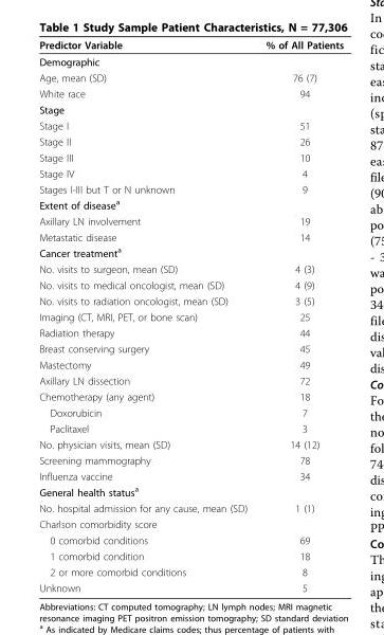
<table><thead><tr><td>Predictor Variable</td><td>% of All Patients</td></tr></thead><tbody><tr><td colspan="2">Demographic</td></tr><tr><td>Age, mean (SD)</td><td>76 (7)</td></tr><tr><td>White race</td><td>94</td></tr><tr><td colspan="2">Stage</td></tr><tr><td>Stage I</td><td>51</td></tr><tr><td>Stage II</td><td>26</td></tr><tr><td>Stage III</td><td>10</td></tr><tr><td>Stage IV</td><td>4</td></tr><tr><td>Stages I-III but T or N unknown</td><td>9</td></tr><tr><td colspan="2">Extent of disease<sup>a</sup></td></tr><tr><td>Axillary LN involvement</td><td>19</td></tr><tr><td>Metastatic disease</td><td>14</td></tr><tr><td colspan="2">Cancer treatment<sup>a</sup></td></tr><tr><td>No. visits to surgeon, mean (SD)</td><td>4 (3)</td></tr><tr><td>No. visits to medical oncologist, mean (SD)</td><td>4 (9)</td></tr><tr><td>No. visits to radiation oncologist, mean (SD)</td><td>3 (5)</td></tr><tr><td>Imaging (CT, MRI, PET, or bone scan)</td><td>25</td></tr><tr><td>Radiation therapy</td><td>44</td></tr><tr><td>Breast conserving surgery</td><td>45</td></tr><tr><td>Mastectomy</td><td>49</td></tr><tr><td>Axillary LN dissection</td><td>72</td></tr><tr><td>Chemotherapy (any agent)</td><td>18</td></tr><tr><td>Doxorubicin</td><td>7</td></tr><tr><td>Paclitaxel</td><td>3</td></tr><tr><td>No. physician visits, mean (SD)</td><td>14 (12)</td></tr><tr><td>Screening mammography</td><td>78</td></tr><tr><td>Influenza vaccine</td><td>34</td></tr><tr><td colspan="2">General health status<sup>a</sup></td></tr><tr><td>No. hospital admission for any cause, mean (SD)</td><td>1 (1)</td></tr><tr><td colspan="2">Charlson comorbidity score</td></tr><tr><td>0 comorbid conditions</td><td>69</td></tr><tr><td>1 comorbid condition</td><td>18</td></tr><tr><td>2 or more comorbid conditions</td><td>8</td></tr><tr><td>Unknown</td><td>5</td></tr></tbody></table>